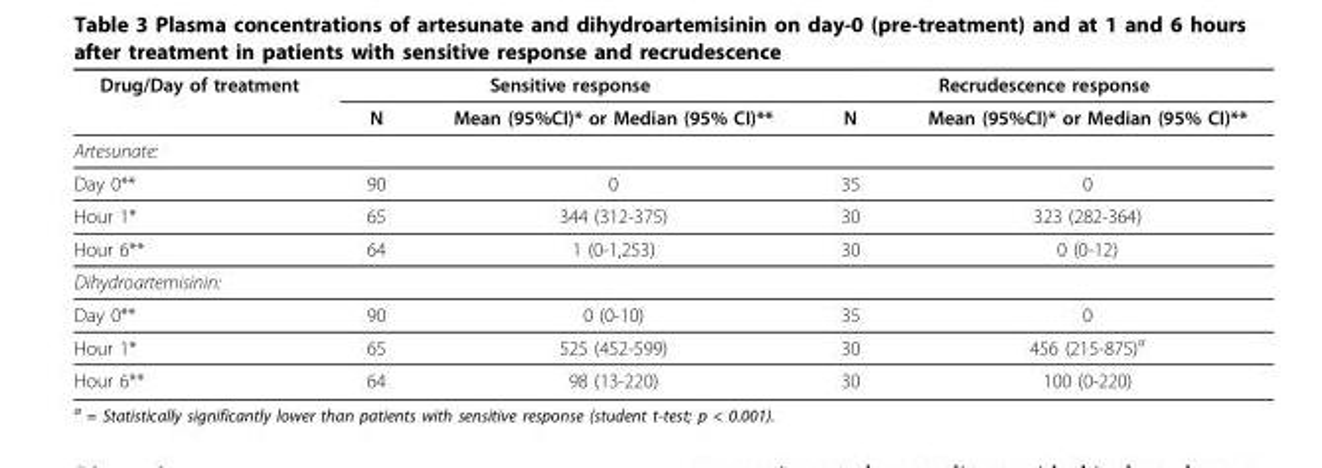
<table><thead><tr><td rowspan="2">Drug/Day of treatment</td><td colspan="2">Sensitive response</td><td colspan="2">Recrudescence response</td></tr><tr><td>N</td><td>Mean (95%CI)* or Median (95% CI)**</td><td>N</td><td>Mean (95%CI)* or Median (95% CI)**</td></tr></thead><tbody><tr><td colspan="5">Artesunate:</td></tr><tr><td>Day 0**</td><td>90</td><td>0</td><td>35</td><td>0</td></tr><tr><td>Hour 1*</td><td>65</td><td>344 (312-375)</td><td>30</td><td>323 (282-364)</td></tr><tr><td>Hour 6**</td><td>64</td><td>1 (0-1,253)</td><td>30</td><td>0 (0-12)</td></tr><tr><td colspan="5">Dihydroartemisinin:</td></tr><tr><td>Day 0**</td><td>90</td><td>0 (0-10)</td><td>35</td><td>0</td></tr><tr><td>Hour 1*</td><td>65</td><td>525 (452-599)</td><td>30</td><td>456 (215-875)a</td></tr><tr><td>Hour 6**</td><td>64</td><td>98 (13-220)</td><td>30</td><td>100 (0-220)</td></tr></tbody></table>